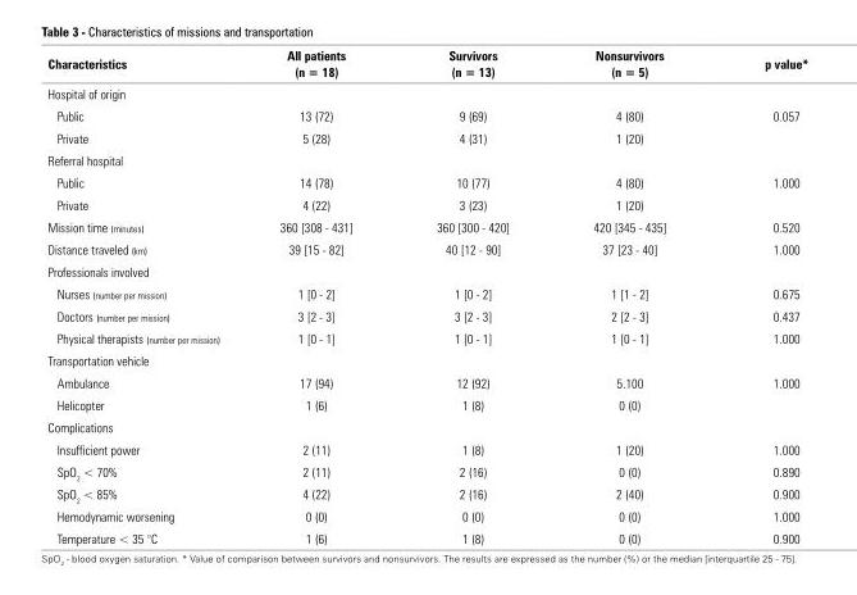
<table><thead><tr><td>Characteristics</td><td>All patients (n = 18)</td><td>Survivors (n = 13)</td><td>Nonsurvivors (n = 5)</td><td>p value*</td></tr></thead><tbody><tr><td colspan="5">Hospital of origin</td></tr><tr><td>Public</td><td>13 (72)</td><td>9 (69)</td><td>4 (80)</td><td>0.057</td></tr><tr><td>Private</td><td>5 (28)</td><td>4 (31)</td><td>1 (20)</td><td></td></tr><tr><td colspan="5">Referral hospital</td></tr><tr><td>Public</td><td>14 (78)</td><td>10 (77)</td><td>4 (80)</td><td>1.000</td></tr><tr><td>Private</td><td>4 (22)</td><td>3 (23)</td><td>1 (20)</td><td></td></tr><tr><td>Mission time (minutes)</td><td>360 [308 - 431]</td><td>360 [300 - 420]</td><td>420 [345 - 435]</td><td>0.520</td></tr><tr><td>Distance traveled (km)</td><td>39 [15 - 82]</td><td>40 [12 - 90]</td><td>37 [23 - 40]</td><td>1.000</td></tr><tr><td colspan="5">Professionals involved</td></tr><tr><td>Nurses (number per mission)</td><td>1 [0 - 2]</td><td>1 [0 - 2]</td><td>1 [1 - 2]</td><td>0.675</td></tr><tr><td>Doctors (number per mission)</td><td>3 [2 - 3]</td><td>3 [2 - 3]</td><td>2 [2 - 3]</td><td>0.437</td></tr><tr><td>Physical therapists (number per mission)</td><td>1 [0 - 1]</td><td>1 [0 - 1]</td><td>1 [0 - 1]</td><td>1.000</td></tr><tr><td colspan="5">Transportation vehicle</td></tr><tr><td>Ambulance</td><td>17 (94)</td><td>12 (92)</td><td>5.100</td><td>1.000</td></tr><tr><td>Helicopter</td><td>1 (6)</td><td>1 (8)</td><td>0 (0)</td><td></td></tr><tr><td colspan="5">Complications</td></tr><tr><td>Insufficient power</td><td>2 (11)</td><td>1 (8)</td><td>1 (20)</td><td>1.000</td></tr><tr><td>SpO<sub>2</sub> &lt; 70%</td><td>2 (11)</td><td>2 (16)</td><td>0 (0)</td><td>0.890</td></tr><tr><td>SpO<sub>2</sub> &lt; 85%</td><td>4 (22)</td><td>2 (16)</td><td>2 (40)</td><td>0.900</td></tr><tr><td>Hemodynamic worsening</td><td>0 (0)</td><td>0 (0)</td><td>0 (0)</td><td>1.000</td></tr><tr><td>Temperature &lt; 35 °C</td><td>1 (6)</td><td>1 (8)</td><td>0 (0)</td><td>0.900</td></tr></tbody></table>